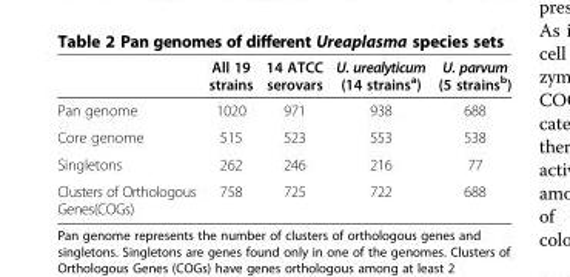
<table><thead><tr><td></td><td>All 19 strains</td><td>14 ATCC serovars</td><td>U. urealyticum (14 strains<sup>a</sup>)</td><td>U. parvum (5 strains<sup>b</sup>)</td></tr></thead><tbody><tr><td>Pan genome</td><td>1020</td><td>971</td><td>938</td><td>688</td></tr><tr><td>Core genome</td><td>515</td><td>523</td><td>553</td><td>538</td></tr><tr><td>Singletons</td><td>262</td><td>246</td><td>216</td><td>77</td></tr><tr><td>Clusters of Orthologous Genes(COGs)</td><td>758</td><td>725</td><td>722</td><td>688</td></tr></tbody></table>